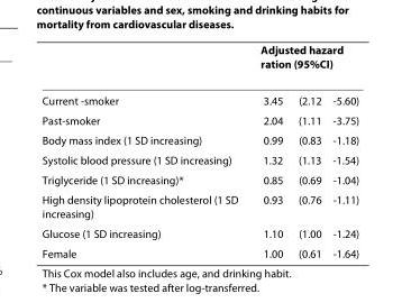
<table><thead><tr><td rowspan="2">Current -smoker</td><td colspan="3">Adjusted hazard ration (95%CI)</td></tr><tr><td>3.45</td><td>(2.12</td><td>-5.60)</td></tr></thead><tbody><tr><td>Past-smoker</td><td>2.04</td><td>(1.11</td><td>-3.75)</td></tr><tr><td>Body mass index (1 SD increasing)</td><td>0.99</td><td>(0.83</td><td>-1.18)</td></tr><tr><td>Systolic blood pressure (1 SD increasing)</td><td>1.32</td><td>(1.13</td><td>-1.54)</td></tr><tr><td>Triglyceride (1 SD increasing)*</td><td>0.85</td><td>(0.69</td><td>-1.04)</td></tr><tr><td>High density lipoprotein cholesterol (1 SD increasing)</td><td>0.93</td><td>(0.76</td><td>-1.11)</td></tr><tr><td>Glucose (1 SD increasing)</td><td>1.10</td><td>(1.00</td><td>-1.24)</td></tr><tr><td>Female</td><td>1.00</td><td>(0.61</td><td>-1.64)</td></tr></tbody></table>